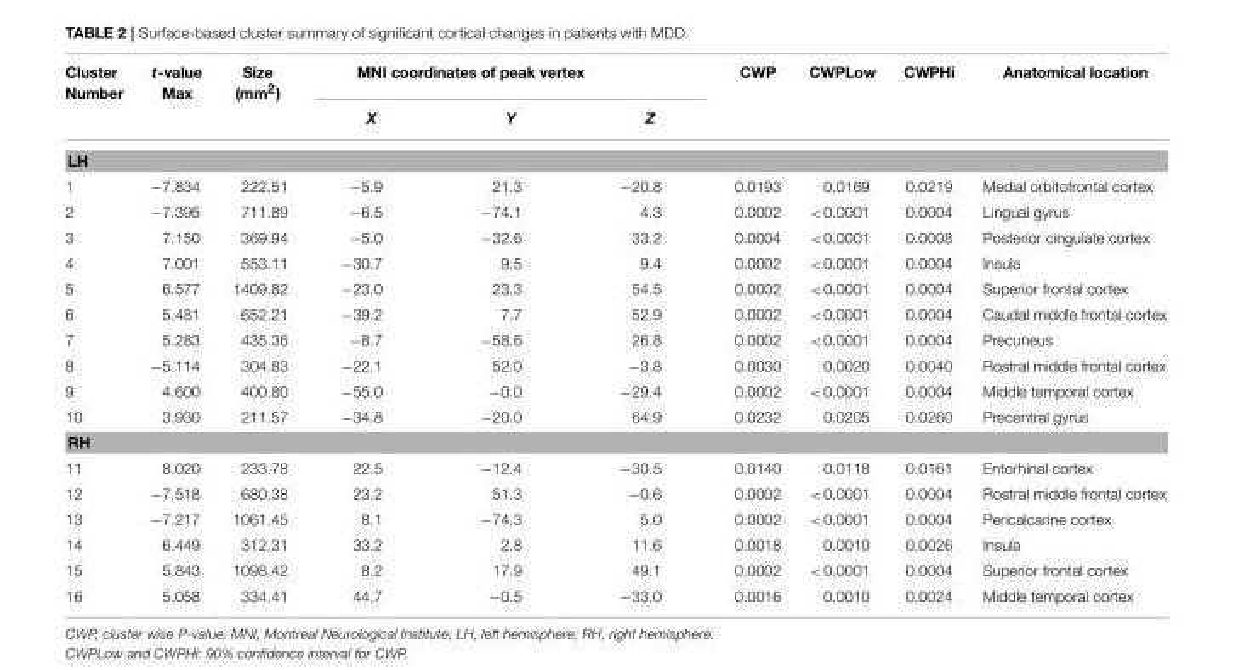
<table><thead><tr><td rowspan="2">Cluster Number</td><td rowspan="2">t-value Max</td><td rowspan="2">Size (mm<sup>2</sup>)</td><td colspan="3">MNI coordinates of peak vertex</td><td rowspan="2">CWP</td><td rowspan="2">CWPLow</td><td rowspan="2">CWPHi</td><td rowspan="2">Anatomical location</td></tr><tr><td>X</td><td>Y</td><td>Z</td></tr></thead><tbody><tr><td colspan="10">LH</td></tr><tr><td>1</td><td>−7.834</td><td>222.51</td><td>−5.9</td><td>21.3</td><td>−20.8</td><td>0.0193</td><td>0.0169</td><td>0.0219</td><td>Medial orbitofrontal cortex</td></tr><tr><td>2</td><td>−7.395</td><td>711.89</td><td>−6.5</td><td>−74.1</td><td>4.3</td><td>0.0002</td><td>&lt;0.0001</td><td>0.0004</td><td>Lingual gyrus</td></tr><tr><td>3</td><td>7.150</td><td>369.94</td><td>−5.0</td><td>−32.6</td><td>33.2</td><td>0.0004</td><td>&lt;0.0001</td><td>0.0008</td><td>Posterior cingulate cortex</td></tr><tr><td>4</td><td>7.001</td><td>553.11</td><td>−30.7</td><td>9.5</td><td>9.4</td><td>0.0002</td><td>&lt;0.0001</td><td>0.0004</td><td>Insula</td></tr><tr><td>5</td><td>6.577</td><td>1409.82</td><td>−23.0</td><td>23.3</td><td>54.5</td><td>0.0002</td><td>&lt;0.0001</td><td>0.0004</td><td>Superior frontal cortex</td></tr><tr><td>6</td><td>5.481</td><td>652.21</td><td>−39.2</td><td>7.7</td><td>52.9</td><td>0.0002</td><td>&lt;0.0001</td><td>0.0004</td><td>Caudal middle frontal cortex</td></tr><tr><td>7</td><td>5.283</td><td>435.36</td><td>−8.7</td><td>−58.6</td><td>26.8</td><td>0.0002</td><td>&lt;0.0001</td><td>0.0004</td><td>Precuneus</td></tr><tr><td>8</td><td>−5.114</td><td>304.83</td><td>−22.1</td><td>52.0</td><td>−3.8</td><td>0.0030</td><td>0.0020</td><td>0.0040</td><td>Rostral middle frontal cortex</td></tr><tr><td>9</td><td>4.600</td><td>400.80</td><td>−55.0</td><td>−0.0</td><td>−29.4</td><td>0.0002</td><td>&lt;0.0001</td><td>0.0004</td><td>Middle temporal cortex</td></tr><tr><td>10</td><td>3.930</td><td>211.57</td><td>−34.8</td><td>−20.0</td><td>64.9</td><td>0.0232</td><td>0.0205</td><td>0.0260</td><td>Precentral gyrus</td></tr><tr><td colspan="10">RH</td></tr><tr><td>11</td><td>8.020</td><td>233.78</td><td>22.5</td><td>−12.4</td><td>−30.5</td><td>0.0140</td><td>0.0118</td><td>0.0161</td><td>Entorhinal cortex</td></tr><tr><td>12</td><td>−7.518</td><td>680.38</td><td>23.2</td><td>51.3</td><td>−0.6</td><td>0.0002</td><td>&lt;0.0001</td><td>0.0004</td><td>Rostral middle frontal cortex</td></tr><tr><td>13</td><td>−7.217</td><td>1061.45</td><td>8.1</td><td>−74.3</td><td>5.0</td><td>0.0002</td><td>&lt;0.0001</td><td>0.0004</td><td>Pericalcarine cortex</td></tr><tr><td>14</td><td>6.449</td><td>312.31</td><td>33.2</td><td>2.8</td><td>11.6</td><td>0.0018</td><td>0.0010</td><td>0.0026</td><td>Insula</td></tr><tr><td>15</td><td>5.843</td><td>1098.42</td><td>8.2</td><td>17.9</td><td>49.1</td><td>0.0002</td><td>&lt;0.0001</td><td>0.0004</td><td>Superior frontal cortex</td></tr><tr><td>16</td><td>5.058</td><td>334.41</td><td>44.7</td><td>−0.5</td><td>−33.0</td><td>0.0016</td><td>0.0010</td><td>0.0024</td><td>Middle temporal cortex</td></tr></tbody></table>